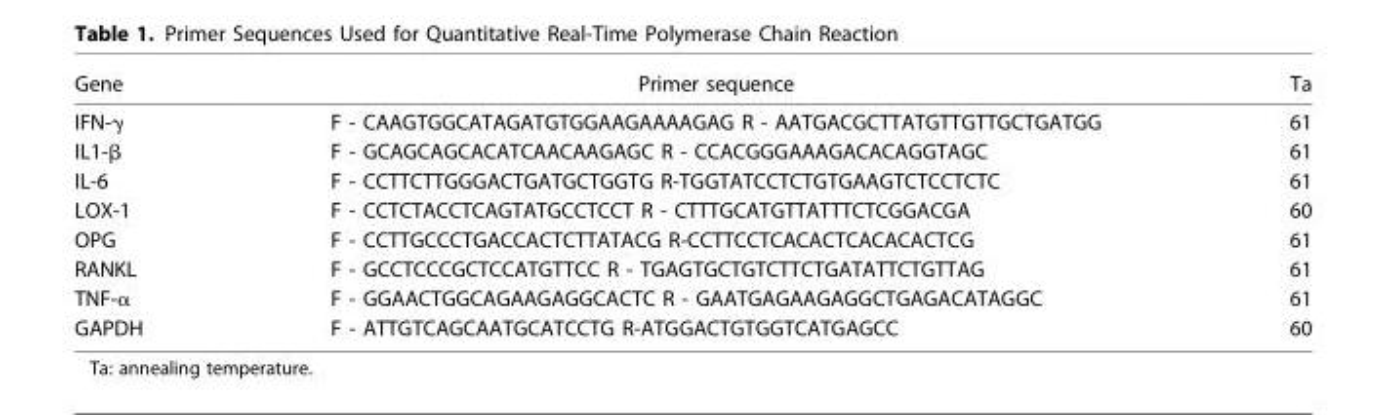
<table><thead><tr><td>Gene</td><td>Primer sequence</td><td>Ta</td></tr></thead><tbody><tr><td>IFN-γ</td><td>F - CAAGTGGCATAGATGTGGAAGAAAAGAG R - AATGACGCTTATGTTGTTGCTGATGG</td><td>61</td></tr><tr><td>IL1-β</td><td>F - GCAGCAGCACATCAACAAGAGC R - CCACGGGAAAGACACAGGTAGC</td><td>61</td></tr><tr><td>IL-6</td><td>F - CCTTCTTGGGACTGATGCTGGTG R-TGGTATCCTCTGTGAAGTCTCCTCTC</td><td>61</td></tr><tr><td>LOX-1</td><td>F - CCTCTACCTCAGTATGCCTCCT R - CTTTGCATGTTATTTCTCGGACGA</td><td>60</td></tr><tr><td>OPG</td><td>F - CCTTGCCCTGACCACTCTTATACG R-CCTTCCTCACACTCACACACTCG</td><td>61</td></tr><tr><td>RANKL</td><td>F - GCCTCCCGCTCCATGTTCC R - TGAGTGCTGTCTTCTGATATTCTGTTAG</td><td>61</td></tr><tr><td>TNF-α</td><td>F - GGAACTGGCAGAAGAGGCACTC R - GAATGAGAAGAGGCTGAGACATAGGC</td><td>61</td></tr><tr><td>GAPDH</td><td>F - ATTGTCAGCAATGCATCCTG R-ATGGACTGTGGTCATGAGCC</td><td>60</td></tr></tbody></table>